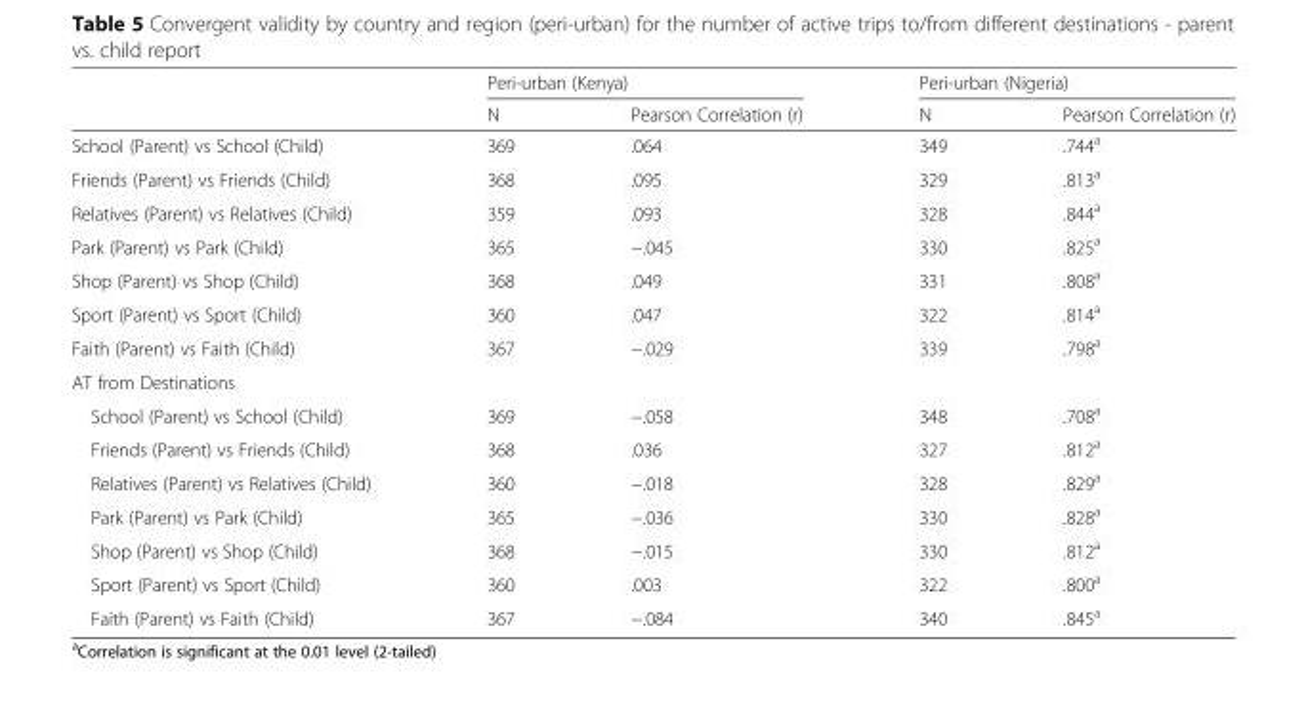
<table><thead><tr><td rowspan="2"></td><td colspan="2">Peri-urban (Kenya)</td><td colspan="2">Peri-urban (Nigeria)</td></tr><tr><td>N</td><td>Pearson Correlation (r)</td><td>N</td><td>Pearson Correlation (r)</td></tr></thead><tbody><tr><td>School (Parent) vs School (Child)</td><td>369</td><td>.064</td><td>349</td><td>.744<sup>a</sup></td></tr><tr><td>Friends (Parent) vs Friends (Child)</td><td>368</td><td>.095</td><td>329</td><td>.813<sup>a</sup></td></tr><tr><td>Relatives (Parent) vs Relatives (Child)</td><td>359</td><td>.093</td><td>328</td><td>.844<sup>a</sup></td></tr><tr><td>Park (Parent) vs Park (Child)</td><td>365</td><td>−.045</td><td>330</td><td>.825<sup>a</sup></td></tr><tr><td>Shop (Parent) vs Shop (Child)</td><td>368</td><td>.049</td><td>331</td><td>.808<sup>a</sup></td></tr><tr><td>Sport (Parent) vs Sport (Child)</td><td>360</td><td>.047</td><td>322</td><td>.814<sup>a</sup></td></tr><tr><td>Faith (Parent) vs Faith (Child)</td><td>367</td><td>−.029</td><td>339</td><td>.798<sup>a</sup></td></tr><tr><td colspan="5">AT from Destinations</td></tr><tr><td>School (Parent) vs School (Child)</td><td>369</td><td>−.058</td><td>348</td><td>.708<sup>a</sup></td></tr><tr><td>Friends (Parent) vs Friends (Child)</td><td>368</td><td>.036</td><td>327</td><td>.812<sup>a</sup></td></tr><tr><td>Relatives (Parent) vs Relatives (Child)</td><td>360</td><td>−.018</td><td>328</td><td>.829<sup>a</sup></td></tr><tr><td>Park (Parent) vs Park (Child)</td><td>365</td><td>−.036</td><td>330</td><td>.828<sup>a</sup></td></tr><tr><td>Shop (Parent) vs Shop (Child)</td><td>368</td><td>−.015</td><td>330</td><td>.812<sup>a</sup></td></tr><tr><td>Sport (Parent) vs Sport (Child)</td><td>360</td><td>.003</td><td>322</td><td>.800<sup>a</sup></td></tr><tr><td>Faith (Parent) vs Faith (Child)</td><td>367</td><td>−.084</td><td>340</td><td>.845<sup>a</sup></td></tr></tbody></table>